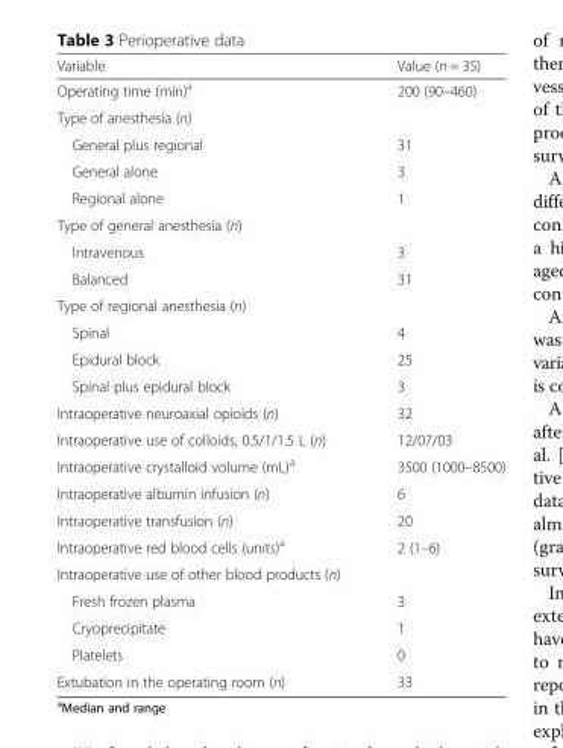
<table><thead><tr><td>Variable</td><td>Value (n = 35)</td></tr></thead><tbody><tr><td>Operating time (min)<sup>a</sup></td><td>200 (90–460)</td></tr><tr><td colspan="2">Type of anesthesia (n)</td></tr><tr><td>General plus regional</td><td>31</td></tr><tr><td>General alone</td><td>3</td></tr><tr><td>Regional alone</td><td>1</td></tr><tr><td colspan="2">Type of general anesthesia (n)</td></tr><tr><td>Intravenous</td><td>3</td></tr><tr><td>Balanced</td><td>31</td></tr><tr><td colspan="2">Type of regional anesthesia (n)</td></tr><tr><td>Spinal</td><td>4</td></tr><tr><td>Epidural block</td><td>25</td></tr><tr><td>Spinal plus epidural block</td><td>3</td></tr><tr><td>Intraoperative neuroaxial opioids (n)</td><td>32</td></tr><tr><td>Intraoperative use of colloids, 0.5/1/1.5 L (n)</td><td>12/07/03</td></tr><tr><td>Intraoperative crystalloid volume (mL)<sup>a</sup></td><td>3500 (1000–8500)</td></tr><tr><td>Intraoperative albumin infusion (n)</td><td>6</td></tr><tr><td>Intraoperative transfusion (n)</td><td>20</td></tr><tr><td>Intraoperative red blood cells (units)<sup>a</sup></td><td>2 (1–6)</td></tr><tr><td colspan="2">Intraoperative use of other blood products (n)</td></tr><tr><td>Fresh frozen plasma</td><td>3</td></tr><tr><td>Cryoprecipitate</td><td>1</td></tr><tr><td>Platelets</td><td>0</td></tr><tr><td>Extubation in the operating room (n)</td><td>33</td></tr></tbody></table>